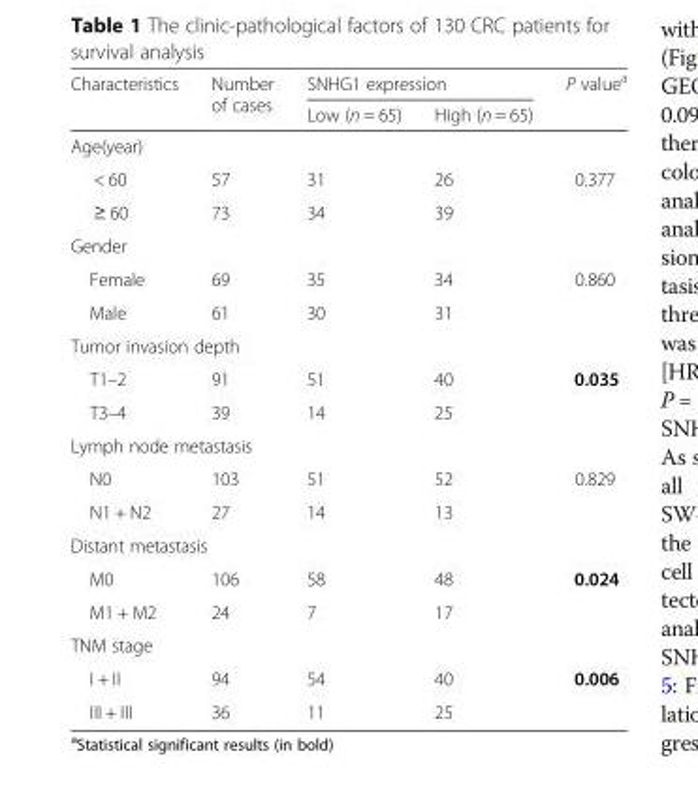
<table><thead><tr><td rowspan="2">Characteristics</td><td rowspan="2">Number of cases</td><td colspan="2">SNHG1 expression</td><td rowspan="2">P value<sup>a</sup></td></tr><tr><td>Low (n = 65)</td><td>High (n = 65)</td></tr></thead><tbody><tr><td colspan="5">Age(year)</td></tr><tr><td>&lt; 60</td><td>57</td><td>31</td><td>26</td><td rowspan="2">0.377</td></tr><tr><td>≥ 60</td><td>73</td><td>34</td><td>39</td></tr><tr><td colspan="5">Gender</td></tr><tr><td>Female</td><td>69</td><td>35</td><td>34</td><td rowspan="2">0.860</td></tr><tr><td>Male</td><td>61</td><td>30</td><td>31</td></tr><tr><td colspan="5">Tumor invasion depth</td></tr><tr><td>T1–2</td><td>91</td><td>51</td><td>40</td><td rowspan="2">0.035</td></tr><tr><td>T3–4</td><td>39</td><td>14</td><td>25</td></tr><tr><td colspan="5">Lymph node metastasis</td></tr><tr><td>N0</td><td>103</td><td>51</td><td>52</td><td rowspan="2">0.829</td></tr><tr><td>N1 + N2</td><td>27</td><td>14</td><td>13</td></tr><tr><td colspan="5">Distant metastasis</td></tr><tr><td>M0</td><td>106</td><td>58</td><td>48</td><td rowspan="2">0.024</td></tr><tr><td>M1 + M2</td><td>24</td><td>7</td><td>17</td></tr><tr><td colspan="5">TNM stage</td></tr><tr><td>I + II</td><td>94</td><td>54</td><td>40</td><td rowspan="2">0.006</td></tr><tr><td>III + III</td><td>36</td><td>11</td><td>25</td></tr></tbody></table>